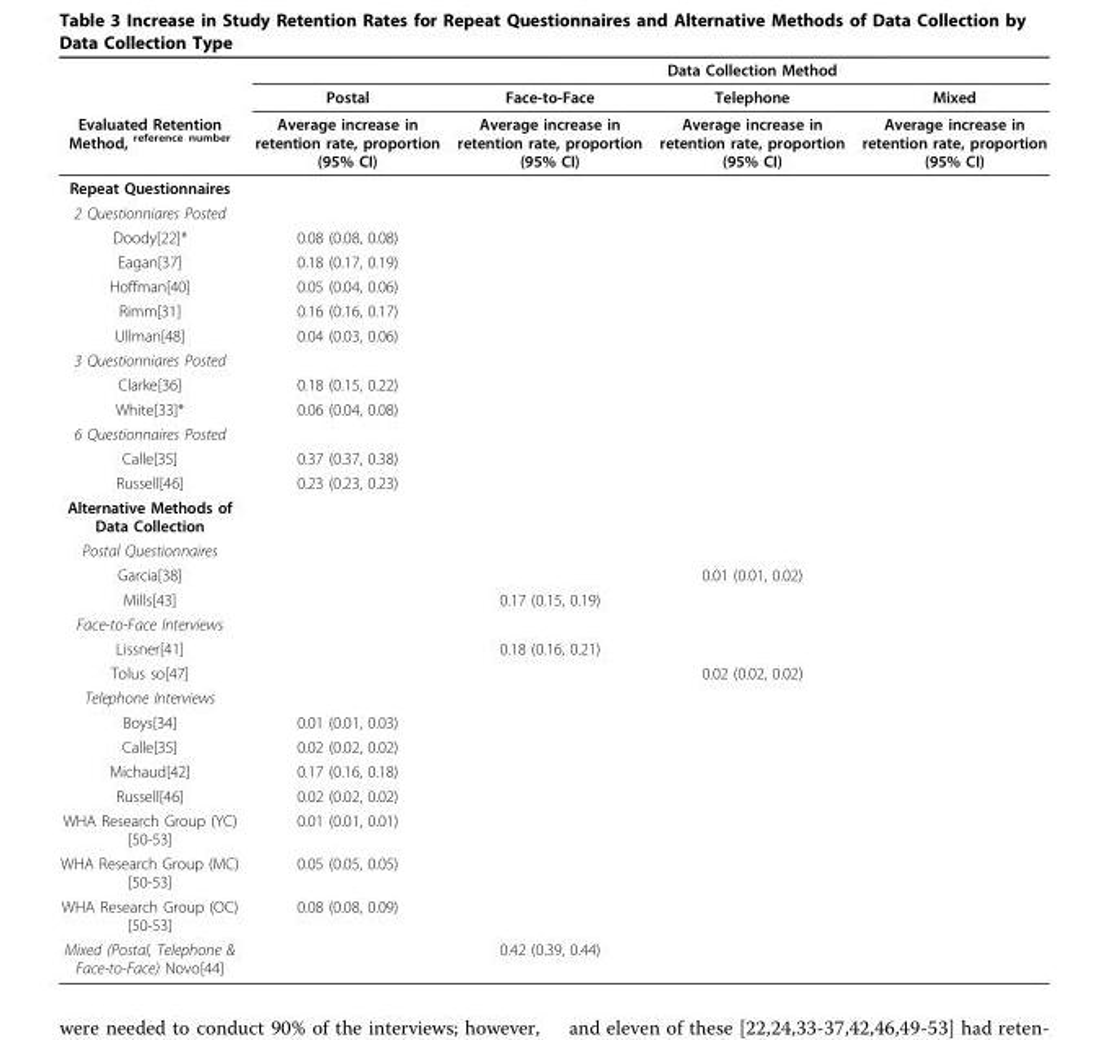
<table><thead><tr><td rowspan="3">Evaluated Retention Method, <sup>reference number</sup></td><td rowspan="3">Postal Average increase in retention rate, proportion (95% CI)</td><td colspan="3">Data Collection Method</td></tr><tr><td rowspan="2">Face-to-Face Average increase in retention rate, proportion (95% CI)</td><td rowspan="2">Telephone Average increase in retention rate, proportion (95% CI)</td><td rowspan="2">Mixed Average increase in retention rate, proportion (95% CI)</td></tr><tr></tr></thead><tbody><tr><td colspan="5">Repeat Questionnaires</td></tr><tr><td colspan="5">2 Questionniares Posted</td></tr><tr><td>Doody[22]*</td><td>0.08 (0.08, 0.08)</td><td></td><td></td><td></td></tr><tr><td>Eagan[37]</td><td>0.18 (0.17, 0.19)</td><td></td><td></td><td></td></tr><tr><td>Hoffman[40]</td><td>0.05 (0.04, 0.06)</td><td></td><td></td><td></td></tr><tr><td>Rimm[31]</td><td>0.16 (0.16, 0.17)</td><td></td><td></td><td></td></tr><tr><td>Ullman[48]</td><td>0.04 (0.03, 0.06)</td><td></td><td></td><td></td></tr><tr><td colspan="5">3 Questionniares Posted</td></tr><tr><td>Clarke[36]</td><td>0.18 (0.15, 0.22)</td><td></td><td></td><td></td></tr><tr><td>White[33]*</td><td>0.06 (0.04, 0.08)</td><td></td><td></td><td></td></tr><tr><td colspan="5">6 Questionnaires Posted</td></tr><tr><td>Calle[35]</td><td>0.37 (0.37, 0.38)</td><td></td><td></td><td></td></tr><tr><td>Russell[46]</td><td>0.23 (0.23, 0.23)</td><td></td><td></td><td></td></tr><tr><td colspan="5">Alternative Methods of Data Collection</td></tr><tr><td colspan="5">Postal Questionnaires</td></tr><tr><td>Garcia[38]</td><td></td><td></td><td>0.01 (0.01, 0.02)</td><td></td></tr><tr><td>Mills[43]</td><td></td><td>0.17 (0.15, 0.19)</td><td></td><td></td></tr><tr><td colspan="5">Face-to-Face Interviews</td></tr><tr><td>Lissner[41]</td><td></td><td>0.18 (0.16, 0.21)</td><td></td><td></td></tr><tr><td>Tolus so[47]</td><td></td><td></td><td>0.02 (0.02, 0.02)</td><td></td></tr><tr><td colspan="5">Telephone Interviews</td></tr><tr><td>Boys[34]</td><td>0.01 (0.01, 0.03)</td><td></td><td></td><td></td></tr><tr><td>Calle[35]</td><td>0.02 (0.02, 0.02)</td><td></td><td></td><td></td></tr><tr><td>Michaud[42]</td><td>0.17 (0.16, 0.18)</td><td></td><td></td><td></td></tr><tr><td>Russell[46]</td><td>0.02 (0.02, 0.02)</td><td></td><td></td><td></td></tr><tr><td>WHA Research Group (YC) [50-53]</td><td>0.01 (0.01, 0.01)</td><td></td><td></td><td></td></tr><tr><td>WHA Research Group (MC) [50-53]</td><td>0.05 (0.05, 0.05)</td><td></td><td></td><td></td></tr><tr><td>WHA Research Group (OC) [50-53]</td><td>0.08 (0.08, 0.09)</td><td></td><td></td><td></td></tr><tr><td>Mixed (Postal, Telephone &amp; Face-to-Face) Novo[44]</td><td></td><td>0.42 (0.39, 0.44)</td><td></td><td></td></tr></tbody></table>